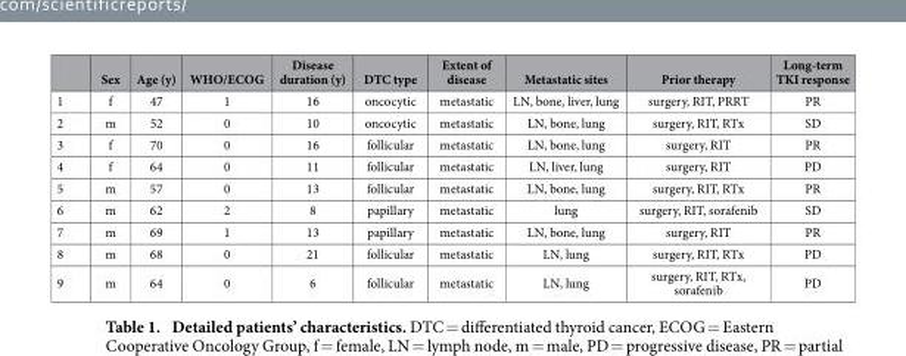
<table><thead><tr><td></td><td>Sex</td><td>Age (y)</td><td>WHO/ECOG</td><td>Disease duration (y)</td><td>DTC type</td><td>Extent of disease</td><td>Metastatic sites</td><td>Prior therapy</td><td>Long-term TKI response</td></tr></thead><tbody><tr><td>1</td><td>f</td><td>47</td><td>1</td><td>16</td><td>oncocytic</td><td>metastatic</td><td>LN, bone, liver, lung</td><td>surgery, RIT, PRRT</td><td>PR</td></tr><tr><td>2</td><td>m</td><td>52</td><td>0</td><td>10</td><td>oncocytic</td><td>metastatic</td><td>LN, bone, lung</td><td>surgery, RIT, RTx</td><td>SD</td></tr><tr><td>3</td><td>f</td><td>70</td><td>0</td><td>16</td><td>follicular</td><td>metastatic</td><td>LN, bone, lung</td><td>surgery, RIT</td><td>PR</td></tr><tr><td>4</td><td>f</td><td>64</td><td>0</td><td>11</td><td>follicular</td><td>metastatic</td><td>LN, liver, lung</td><td>surgery, RIT</td><td>PD</td></tr><tr><td>5</td><td>m</td><td>57</td><td>0</td><td>13</td><td>follicular</td><td>metastatic</td><td>LN, bone, lung</td><td>surgery, RIT, RTx</td><td>PR</td></tr><tr><td>6</td><td>m</td><td>62</td><td>2</td><td>8</td><td>papillary</td><td>metastatic</td><td>lung</td><td>surgery, RIT, sorafenib</td><td>SD</td></tr><tr><td>7</td><td>m</td><td>69</td><td>1</td><td>13</td><td>papillary</td><td>metastatic</td><td>LN, bone, lung</td><td>surgery, RIT</td><td>PR</td></tr><tr><td>8</td><td>m</td><td>68</td><td>0</td><td>21</td><td>follicular</td><td>metastatic</td><td>LN, lung</td><td>surgery, RIT, RTx</td><td>PD</td></tr><tr><td>9</td><td>m</td><td>64</td><td>0</td><td>6</td><td>follicular</td><td>metastatic</td><td>LN, lung</td><td>surgery, RIT, RTx, sorafenib</td><td>PD</td></tr></tbody></table>